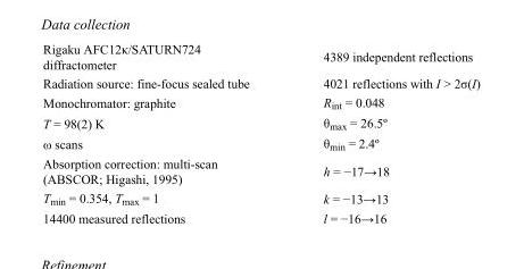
<table><tbody><tr><td>Rigaku AFC12κ/SATURN724 diffractometer</td><td>4389 independent reflections</td></tr><tr><td>Radiation source: fine-focus sealed tube</td><td>4021 reflections with I &gt; 2σ(I)</td></tr><tr><td>Monochromator: graphite</td><td>R<sub>int</sub> = 0.048</td></tr><tr><td>T = 98(2) K</td><td>θ<sub>max</sub> = 26.5º</td></tr><tr><td>ω scans</td><td>θ<sub>min</sub> = 2.4º</td></tr><tr><td>Absorption correction: multi-scan (ABSCOR; Higashi, 1995)</td><td>h = −17→18</td></tr><tr><td>T<sub>min</sub> = 0.354, T<sub>max</sub> = 1</td><td>k = −13→13</td></tr><tr><td>14400 measured reflections</td><td>l = −16→16</td></tr></tbody></table>